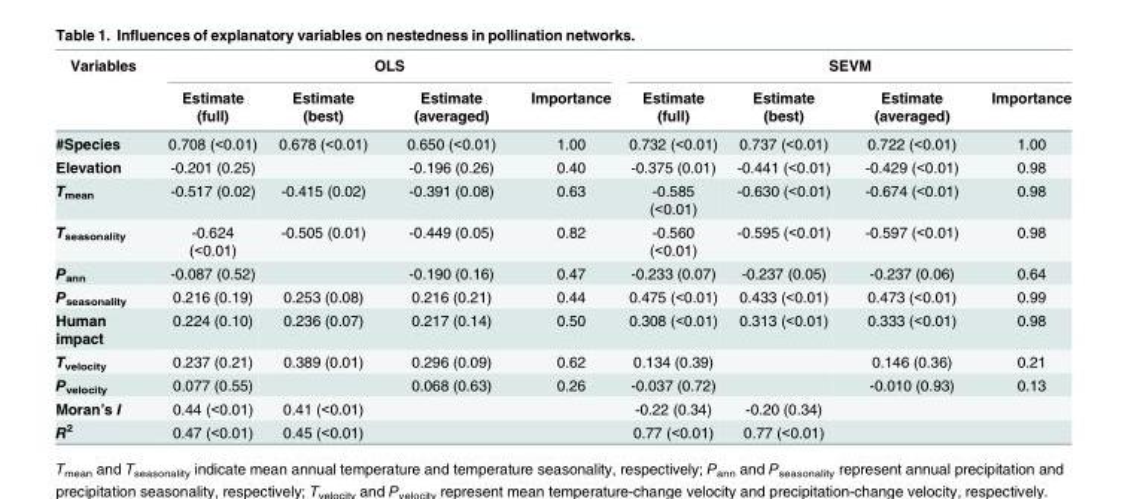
<table><thead><tr><td rowspan="2">Variables</td><td colspan="4">OLS</td><td colspan="4">SEVM</td></tr><tr><td>Estimate (full)</td><td>Estimate (best)</td><td>Estimate (averaged)</td><td>Importance</td><td>Estimate (full)</td><td>Estimate (best)</td><td>Estimate (averaged)</td><td>Importance</td></tr></thead><tbody><tr><td>#Species</td><td>0.708 (&lt;0.01)</td><td>0.678 (&lt;0.01)</td><td>0.650 (&lt;0.01)</td><td>1.00</td><td>0.732 (&lt;0.01)</td><td>0.737 (&lt;0.01)</td><td>0.722 (&lt;0.01)</td><td>1.00</td></tr><tr><td>Elevation</td><td>-0.201 (0.25)</td><td></td><td>-0.196 (0.26)</td><td>0.40</td><td>-0.375 (0.01)</td><td>-0.441 (&lt;0.01)</td><td>-0.429 (&lt;0.01)</td><td>0.98</td></tr><tr><td>T<sub>mean</sub></td><td>-0.517 (0.02)</td><td>-0.415 (0.02)</td><td>-0.391 (0.08)</td><td>0.63</td><td>-0.585 (&lt;0.01)</td><td>-0.630 (&lt;0.01)</td><td>-0.674 (&lt;0.01)</td><td>0.98</td></tr><tr><td>T<sub>seasonality</sub></td><td>-0.624 (&lt;0.01)</td><td>-0.505 (0.01)</td><td>-0.449 (0.05)</td><td>0.82</td><td>-0.560 (&lt;0.01)</td><td>-0.595 (&lt;0.01)</td><td>-0.597 (&lt;0.01)</td><td>0.98</td></tr><tr><td>P<sub>ann</sub></td><td>-0.087 (0.52)</td><td></td><td>-0.190 (0.16)</td><td>0.47</td><td>-0.233 (0.07)</td><td>-0.237 (0.05)</td><td>-0.237 (0.06)</td><td>0.64</td></tr><tr><td>P<sub>seasonality</sub></td><td>0.216 (0.19)</td><td>0.253 (0.08)</td><td>0.216 (0.21)</td><td>0.44</td><td>0.475 (&lt;0.01)</td><td>0.433 (&lt;0.01)</td><td>0.473 (&lt;0.01)</td><td>0.99</td></tr><tr><td>Human impact</td><td>0.224 (0.10)</td><td>0.236 (0.07)</td><td>0.217 (0.14)</td><td>0.50</td><td>0.308 (&lt;0.01)</td><td>0.313 (&lt;0.01)</td><td>0.333 (&lt;0.01)</td><td>0.98</td></tr><tr><td>T<sub>velocity</sub></td><td>0.237 (0.21)</td><td>0.389 (0.01)</td><td>0.296 (0.09)</td><td>0.62</td><td>0.134 (0.39)</td><td></td><td>0.146 (0.36)</td><td>0.21</td></tr><tr><td>P<sub>velocity</sub></td><td>0.077 (0.55)</td><td></td><td>0.068 (0.63)</td><td>0.26</td><td>-0.037 (0.72)</td><td></td><td>-0.010 (0.93)</td><td>0.13</td></tr><tr><td>Moran’s I</td><td>0.44 (&lt;0.01)</td><td>0.41 (&lt;0.01)</td><td></td><td></td><td>-0.22 (0.34)</td><td>-0.20 (0.34)</td><td></td><td></td></tr><tr><td>R<sup>2</sup></td><td>0.47 (&lt;0.01)</td><td>0.45 (&lt;0.01)</td><td></td><td></td><td>0.77 (&lt;0.01)</td><td>0.77 (&lt;0.01)</td><td></td><td></td></tr></tbody></table>